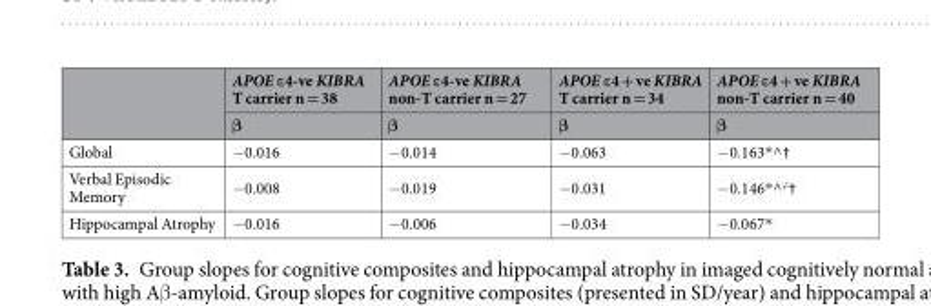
<table><thead><tr><td rowspan="2"></td><td rowspan="2">APOE ε4-ve KIBRA T carrier n = 38 β</td><td rowspan="2">APOE ε4-ve KIBRA non-T carrier n = 27 β</td><td rowspan="2">APOE ε4 + ve KIBRA T carrier n = 34 β</td><td rowspan="2">APOE ε4 + ve KIBRA non-T carrier n = 40 β</td></tr><tr></tr></thead><tbody><tr><td>Global</td><td>−0.016</td><td>−0.014</td><td>−0.063</td><td>−0.163*^†</td></tr><tr><td>Verbal Episodic Memory</td><td>−0.008</td><td>−0.019</td><td>−0.031</td><td>−0.146*^ϕ†</td></tr><tr><td>Hippocampal Atrophy</td><td>−0.016</td><td>−0.006</td><td>−0.034</td><td>−0.067*</td></tr></tbody></table>